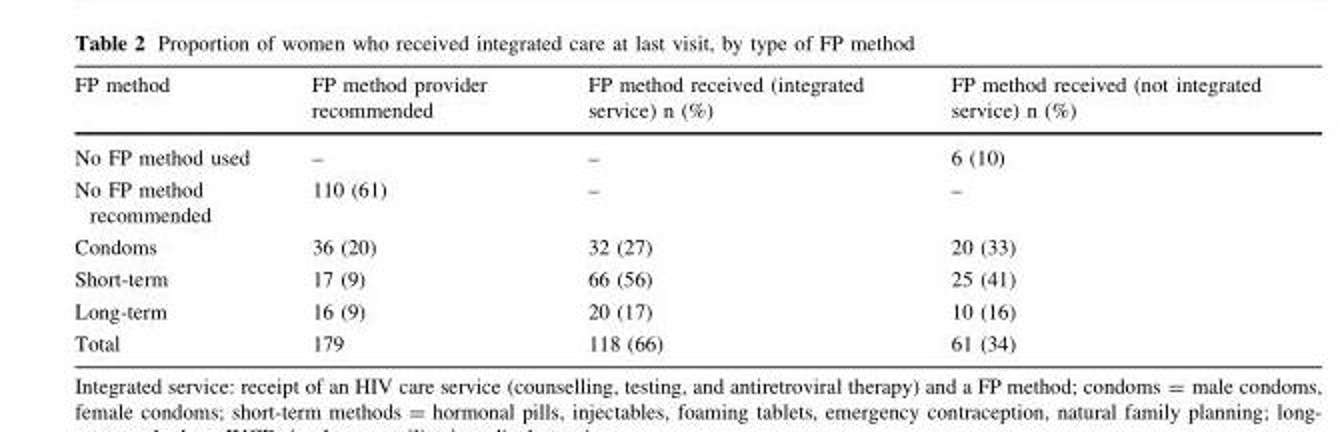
<table><thead><tr><td>FP method</td><td>FP method provider recommended</td><td>FP method received (integrated service) n (%)</td><td>FP method received (not integrated service) n (%)</td></tr></thead><tbody><tr><td>No FP method used</td><td>–</td><td>–</td><td>6 (10)</td></tr><tr><td>No FP method recommended</td><td>110 (61)</td><td>–</td><td>–</td></tr><tr><td>Condoms</td><td>36 (20)</td><td>32 (27)</td><td>20 (33)</td></tr><tr><td>Short-term</td><td>17 (9)</td><td>66 (56)</td><td>25 (41)</td></tr><tr><td>Long-term</td><td>16 (9)</td><td>20 (17)</td><td>10 (16)</td></tr><tr><td>Total</td><td>179</td><td>118 (66)</td><td>61 (34)</td></tr></tbody></table>